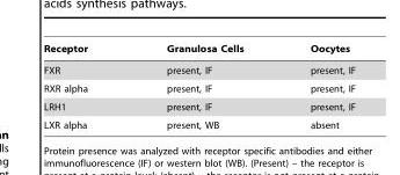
<table><thead><tr><td>Receptor</td><td>Granulosa Cells</td><td>Oocytes</td></tr></thead><tbody><tr><td>FXR</td><td>present, IF</td><td>present, IF</td></tr><tr><td>RXR alpha</td><td>present, IF</td><td>present, IF</td></tr><tr><td>LRH1</td><td>present, IF</td><td>present, IF</td></tr><tr><td>LXR alpha</td><td>present, WB</td><td>absent</td></tr></tbody></table>